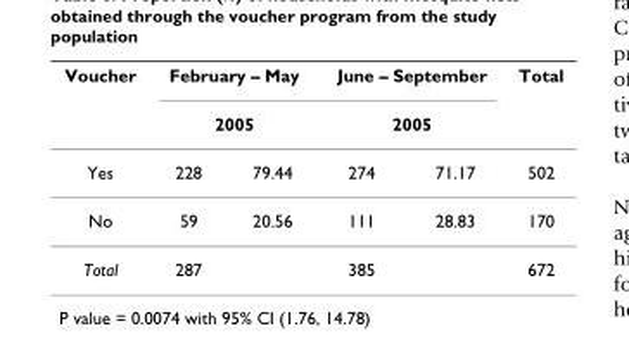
<table><thead><tr><td rowspan="3">Voucher Yes</td><td rowspan="2" colspan="2">February – May 2005</td><td rowspan="2" colspan="2">June – September 2005</td><td rowspan="3">Total 502</td></tr><tr></tr><tr><td>228</td><td>79.44</td><td>274</td><td>71.17</td></tr></thead><tbody><tr><td>No</td><td>59</td><td>20.56</td><td>111</td><td>28.83</td><td>170</td></tr><tr><td>Total</td><td>287</td><td></td><td>385</td><td></td><td>672</td></tr></tbody></table>